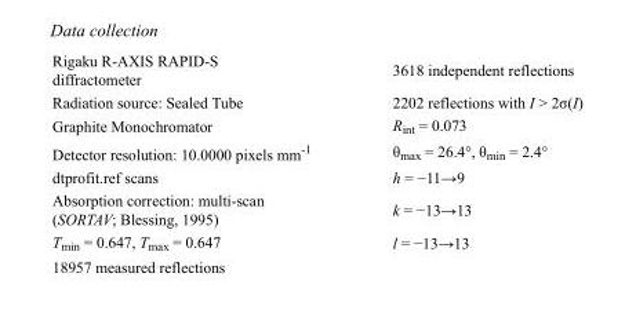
<table><tbody><tr><td>Rigaku R-AXIS RAPID-S diffractometer</td><td>3618 independent reflections</td></tr><tr><td>Radiation source: Sealed Tube</td><td>2202 reflections with I &gt; 2σ(I)</td></tr><tr><td>Graphite Monochromator</td><td>R<sub>int</sub> = 0.073</td></tr><tr><td>Detector resolution: 10.0000 pixels mm<sup>-1</sup></td><td>θ<sub>max</sub> = 26.4°, θ<sub>min</sub> = 2.4°</td></tr><tr><td>dtprofit.ref scans</td><td>h = −11→9</td></tr><tr><td>Absorption correction: multi-scan (SORTAV; Blessing, 1995)</td><td>k = −13→13</td></tr><tr><td>T<sub>min</sub> = 0.647, T<sub>max</sub> = 0.647</td><td>l = −13→13</td></tr><tr><td>18957 measured reflections</td><td></td></tr></tbody></table>